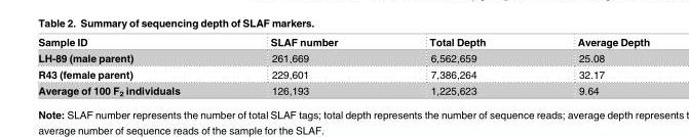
<table><thead><tr><td>Sample ID</td><td>SLAF number</td><td>Total Depth</td><td>Average Depth</td></tr></thead><tbody><tr><td>LH-89 (male parent)</td><td>261,669</td><td>6,562,659</td><td>25.08</td></tr><tr><td>R43 (female parent)</td><td>229,601</td><td>7,386,264</td><td>32.17</td></tr><tr><td>Average of 100 F<sub>2</sub> individuals</td><td>126,193</td><td>1,225,623</td><td>9.64</td></tr></tbody></table>